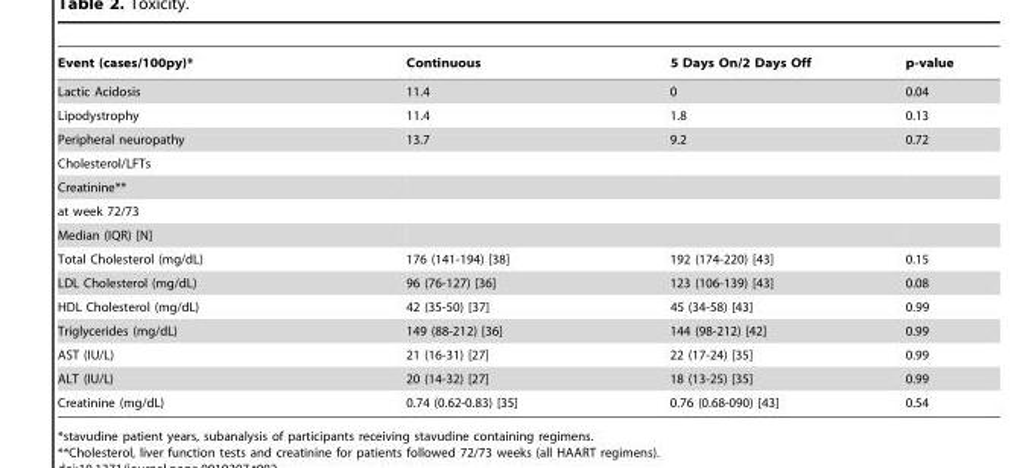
<table><thead><tr><td>Event (cases/100py)*</td><td>Continuous</td><td>5 Days On/2 Days Off</td><td>p-value</td></tr></thead><tbody><tr><td>Lactic Acidosis</td><td>11.4</td><td>0</td><td>0.04</td></tr><tr><td>Lipodystrophy</td><td>11.4</td><td>1.8</td><td>0.13</td></tr><tr><td>Peripheral neuropathy</td><td>13.7</td><td>9.2</td><td>0.72</td></tr><tr><td colspan="4">Cholesterol/LFTs</td></tr><tr><td colspan="4">Creatinine**</td></tr><tr><td colspan="4">at week 72/73</td></tr><tr><td colspan="4">Median (IQR) [N]</td></tr><tr><td>Total Cholesterol (mg/dL)</td><td>176 (141-194) [38]</td><td>192 (174-220) [43]</td><td>0.15</td></tr><tr><td>LDL Cholesterol (mg/dL)</td><td>96 (76-127) [36]</td><td>123 (106-139) [43]</td><td>0.08</td></tr><tr><td>HDL Cholesterol (mg/dL)</td><td>42 (35-50) [37]</td><td>45 (34-58) [43]</td><td>0.99</td></tr><tr><td>Triglycerides (mg/dL)</td><td>149 (88-212) [36]</td><td>144 (98-212) [42]</td><td>0.99</td></tr><tr><td>AST (IU/L)</td><td>21 (16-31) [27]</td><td>22 (17-24) [35]</td><td>0.99</td></tr><tr><td>ALT (IU/L)</td><td>20 (14-32) [27]</td><td>18 (13-25) [35]</td><td>0.99</td></tr><tr><td>Creatinine (mg/dL)</td><td>0.74 (0.62-0.83) [35]</td><td>0.76 (0.68-090) [43]</td><td>0.54</td></tr></tbody></table>